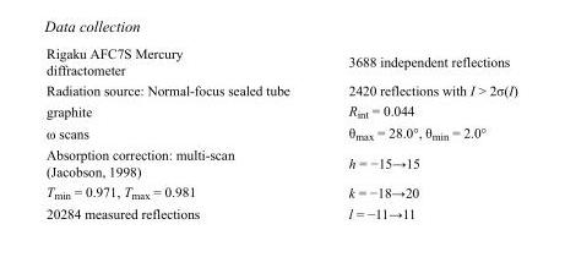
<table><tbody><tr><td>Rigaku AFC7S Mercury diffractometer</td><td>3688 independent reflections</td></tr><tr><td>Radiation source: Normal-focus sealed tube</td><td>2420 reflections with I &gt; 2σ(I)</td></tr><tr><td>graphite</td><td>R<sub>int</sub> = 0.044</td></tr><tr><td>ω scans</td><td>θ<sub>max</sub> = 28.0°, θ<sub>min</sub> = 2.0°</td></tr><tr><td>Absorption correction: multi-scan (Jacobson, 1998)</td><td>h = −15→15</td></tr><tr><td>T<sub>min</sub> = 0.971, T<sub>max</sub> = 0.981</td><td>k = −18→20</td></tr><tr><td>20284 measured reflections</td><td>l = −11→11</td></tr></tbody></table>